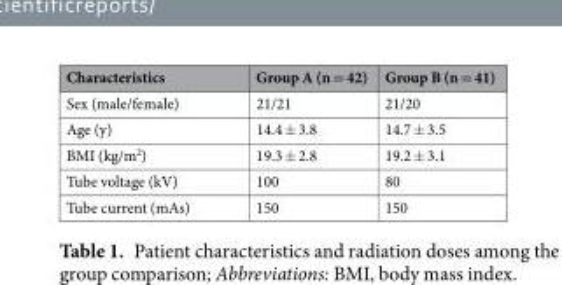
<table><thead><tr><td>Characteristics</td><td>Group A (n = 42)</td><td>Group B (n = 41)</td></tr></thead><tbody><tr><td>Sex (male/female)</td><td>21/21</td><td>21/20</td></tr><tr><td>Age (y)</td><td>14.4 ± 3.8</td><td>14.7 ± 3.5</td></tr><tr><td>BMI (kg/m<sup>2</sup>)</td><td>19.3 ± 2.8</td><td>19.2 ± 3.1</td></tr><tr><td>Tube voltage (kV)</td><td>100</td><td>80</td></tr><tr><td>Tube current (mAs)</td><td>150</td><td>150</td></tr></tbody></table>